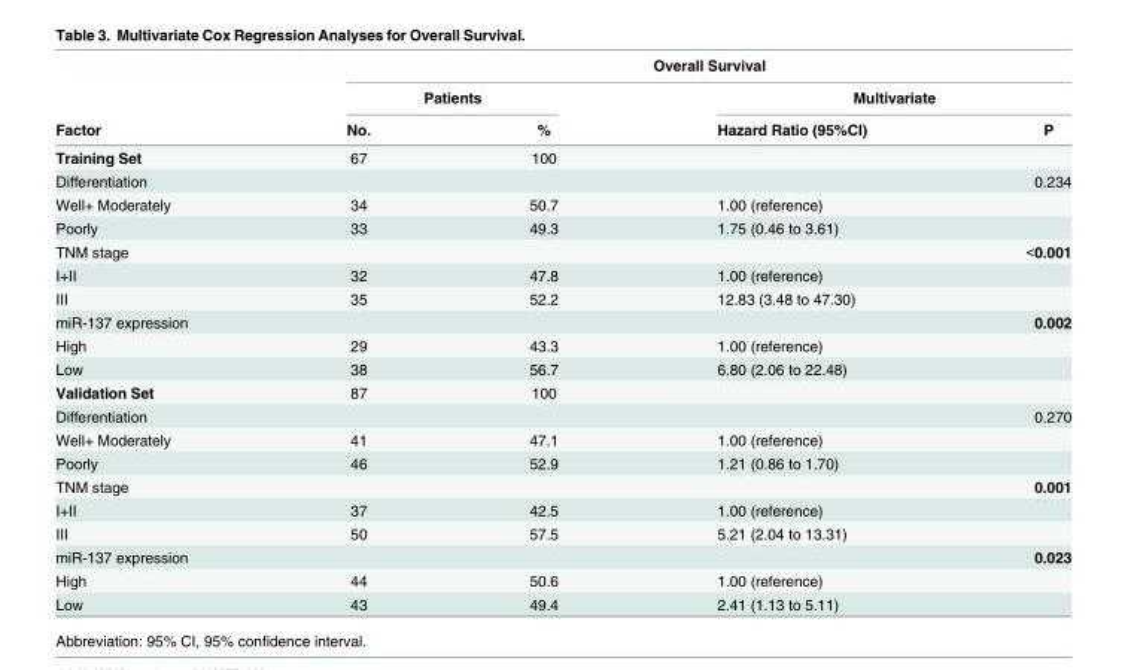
<table><thead><tr><td rowspan="3">Factor</td><td colspan="4">Overall Survival</td></tr><tr><td colspan="2">Patients</td><td colspan="2">Multivariate</td></tr><tr><td>No.</td><td>%</td><td>Hazard Ratio (95%CI)</td><td>P</td></tr></thead><tbody><tr><td>Training Set</td><td>67</td><td>100</td><td></td><td></td></tr><tr><td>Differentiation</td><td></td><td></td><td></td><td>0.234</td></tr><tr><td>Well+ Moderately</td><td>34</td><td>50.7</td><td>1.00 (reference)</td><td></td></tr><tr><td>Poorly</td><td>33</td><td>49.3</td><td>1.75 (0.46 to 3.61)</td><td></td></tr><tr><td>TNM stage</td><td></td><td></td><td></td><td>&lt;0.001</td></tr><tr><td>I+II</td><td>32</td><td>47.8</td><td>1.00 (reference)</td><td></td></tr><tr><td>III</td><td>35</td><td>52.2</td><td>12.83 (3.48 to 47.30)</td><td></td></tr><tr><td>miR-137 expression</td><td></td><td></td><td></td><td>0.002</td></tr><tr><td>High</td><td>29</td><td>43.3</td><td>1.00 (reference)</td><td></td></tr><tr><td>Low</td><td>38</td><td>56.7</td><td>6.80 (2.06 to 22.48)</td><td></td></tr><tr><td>Validation Set</td><td>87</td><td>100</td><td></td><td></td></tr><tr><td>Differentiation</td><td></td><td></td><td></td><td>0.270</td></tr><tr><td>Well+ Moderately</td><td>41</td><td>47.1</td><td>1.00 (reference)</td><td></td></tr><tr><td>Poorly</td><td>46</td><td>52.9</td><td>1.21 (0.86 to 1.70)</td><td></td></tr><tr><td>TNM stage</td><td></td><td></td><td></td><td>0.001</td></tr><tr><td>I+II</td><td>37</td><td>42.5</td><td>1.00 (reference)</td><td></td></tr><tr><td>III</td><td>50</td><td>57.5</td><td>5.21 (2.04 to 13.31)</td><td></td></tr><tr><td>miR-137 expression</td><td></td><td></td><td></td><td>0.023</td></tr><tr><td>High</td><td>44</td><td>50.6</td><td>1.00 (reference)</td><td></td></tr><tr><td>Low</td><td>43</td><td>49.4</td><td>2.41 (1.13 to 5.11)</td><td></td></tr></tbody></table>